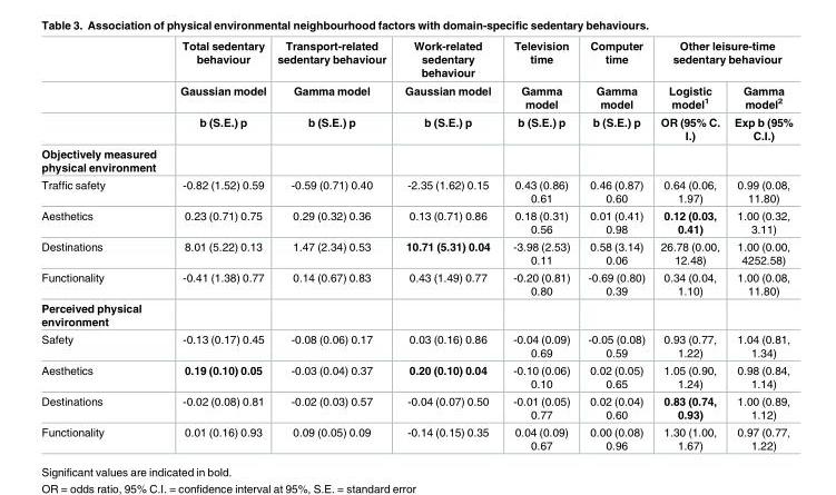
<table><thead><tr><td rowspan="3"></td><td rowspan="3">Total sedentary behaviour Gaussian model b (S.E.) p</td><td rowspan="3">Transport-related sedentary behaviour Gamma model b (S.E.) p</td><td rowspan="3">Work-related sedentary behaviour Gaussian model b (S.E.) p</td><td rowspan="3">Television time Gamma model b (S.E.) p</td><td rowspan="3">Computer time Gamma model b (S.E.) p</td><td colspan="2">Other leisure-time sedentary behaviour</td></tr><tr><td rowspan="2">Logistic model<sup>1</sup> OR (95% C. I.)</td><td rowspan="2">Gamma model<sup>2</sup> Exp b (95% C.I.)</td></tr><tr></tr></thead><tbody><tr><td colspan="8">Objectively measured physical environment</td></tr><tr><td>Traffic safety</td><td>-0.82 (1.52) 0.59</td><td>-0.59 (0.71) 0.40</td><td>-2.35 (1.62) 0.15</td><td>0.43 (0.86) 0.61</td><td>0.46 (0.87) 0.60</td><td>0.64 (0.06, 1.97)</td><td>0.99 (0.08, 11.80)</td></tr><tr><td>Aesthetics</td><td>0.23 (0.71) 0.75</td><td>0.29 (0.32) 0.36</td><td>0.13 (0.71) 0.86</td><td>0.18 (0.31) 0.56</td><td>0.01 (0.41) 0.98</td><td>0.12 (0.03, 0.41)</td><td>1.00 (0.32, 3.11)</td></tr><tr><td>Destinations</td><td>8.01 (5.22) 0.13</td><td>1.47 (2.34) 0.53</td><td>10.71 (5.31) 0.04</td><td>-3.98 (2.53) 0.11</td><td>0.58 (3.14) 0.06</td><td>26.78 (0.00, 12.48)</td><td>1.00 (0.00, 4252.58)</td></tr><tr><td>Functionality</td><td>-0.41 (1.38) 0.77</td><td>0.14 (0.67) 0.83</td><td>0.43 (1.49) 0.77</td><td>-0.20 (0.81) 0.80</td><td>-0.69 (0.80) 0.39</td><td>0.34 (0.04, 1.10)</td><td>1.00 (0.08, 11.80)</td></tr><tr><td colspan="8">Perceived physical environment</td></tr><tr><td>Safety</td><td>-0.13 (0.17) 0.45</td><td>-0.08 (0.06) 0.17</td><td>0.03 (0.16) 0.86</td><td>-0.04 (0.09) 0.69</td><td>-0.05 (0.08) 0.59</td><td>0.93 (0.77, 1.22)</td><td>1.04 (0.81, 1.34)</td></tr><tr><td>Aesthetics</td><td>0.19 (0.10) 0.05</td><td>-0.03 (0.04) 0.37</td><td>0.20 (0.10) 0.04</td><td>-0.10 (0.06) 0.10</td><td>0.02 (0.05) 0.65</td><td>1.05 (0.90, 1.24)</td><td>0.98 (0.84, 1.14)</td></tr><tr><td>Destinations</td><td>-0.02 (0.08) 0.81</td><td>-0.02 (0.03) 0.57</td><td>-0.04 (0.07) 0.50</td><td>-0.01 (0.05) 0.77</td><td>0.02 (0.04) 0.60</td><td>0.83 (0.74, 0.93)</td><td>1.00 (0.89, 1.12)</td></tr><tr><td>Functionality</td><td>0.01 (0.16) 0.93</td><td>0.09 (0.05) 0.09</td><td>-0.14 (0.15) 0.35</td><td>0.04 (0.09) 0.67</td><td>0.00 (0.08) 0.96</td><td>1.30 (1.00, 1.67)</td><td>0.97 (0.77, 1.22)</td></tr></tbody></table>